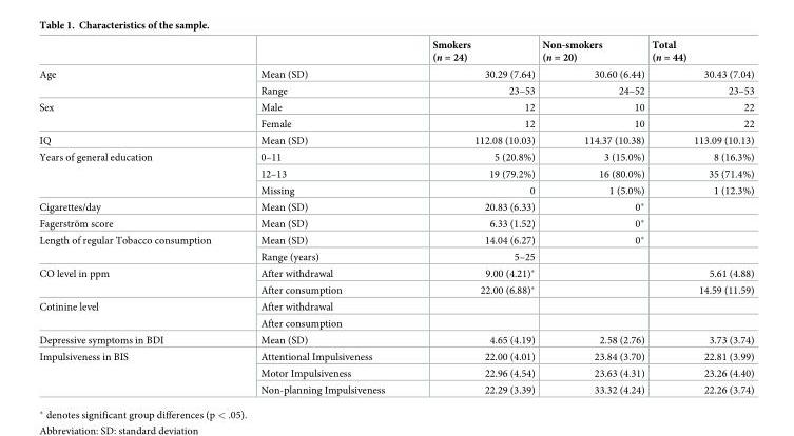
<table><thead><tr><td></td><td></td><td>Smokers (n = 24)</td><td>Non-smokers (n = 20)</td><td>Total (n = 44)</td></tr></thead><tbody><tr><td rowspan="2">Age</td><td>Mean (SD)</td><td>30.29 (7.64)</td><td>30.60 (6.44)</td><td>30.43 (7.04)</td></tr><tr><td>Range</td><td>23–53</td><td>24–52</td><td>23–53</td></tr><tr><td rowspan="2">Sex</td><td>Male</td><td>12</td><td>10</td><td>22</td></tr><tr><td>Female</td><td>12</td><td>10</td><td>22</td></tr><tr><td>IQ</td><td>Mean (SD)</td><td>112.08 (10.03)</td><td>114.37 (10.38)</td><td>113.09 (10.13)</td></tr><tr><td rowspan="3">Years of general education</td><td>0–11</td><td>5 (20.8%)</td><td>3 (15.0%)</td><td>8 (16.3%)</td></tr><tr><td>12–13</td><td>19 (79.2%)</td><td>16 (80.0%)</td><td>35 (71.4%)</td></tr><tr><td>Missing</td><td>0</td><td>1 (5.0%)</td><td>1 (12.3%)</td></tr><tr><td>Cigarettes/day</td><td>Mean (SD)</td><td>20.83 (6.33)</td><td>0*</td><td></td></tr><tr><td>Fagerstro¨m score</td><td>Mean (SD)</td><td>6.33 (1.52)</td><td>0*</td><td></td></tr><tr><td rowspan="2">Length of regular Tobacco consumption</td><td>Mean (SD)</td><td>14.04 (6.27)</td><td>0*</td><td></td></tr><tr><td>Range (years)</td><td>5–25</td><td></td><td></td></tr><tr><td rowspan="2">CO level in ppm</td><td>After withdrawal</td><td>9.00 (4.21)*</td><td></td><td>5.61 (4.88)</td></tr><tr><td>After consumption</td><td>22.00 (6.88)*</td><td></td><td>14.59 (11.59)</td></tr><tr><td rowspan="2">Cotinine level</td><td>After withdrawal</td><td></td><td></td><td></td></tr><tr><td>After consumption</td><td></td><td></td><td></td></tr><tr><td>Depressive symptoms in BDI</td><td>Mean (SD)</td><td>4.65 (4.19)</td><td>2.58 (2.76)</td><td>3.73 (3.74)</td></tr><tr><td rowspan="3">Impulsiveness in BIS</td><td>Attentional Impulsiveness</td><td>22.00 (4.01)</td><td>23.84 (3.70)</td><td>22.81 (3.99)</td></tr><tr><td>Motor Impulsiveness</td><td>22.96 (4.54)</td><td>23.63 (4.31)</td><td>23.26 (4.40)</td></tr><tr><td>Non-planning Impulsiveness</td><td>22.29 (3.39)</td><td>33.32 (4.24)</td><td>22.26 (3.74)</td></tr></tbody></table>